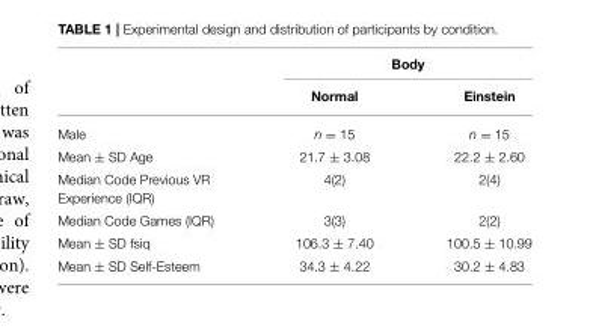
<table><thead><tr><td rowspan="2"></td><td colspan="2">Body</td></tr><tr><td>Normal</td><td>Einstein</td></tr></thead><tbody><tr><td>Male</td><td>n = 15</td><td>n = 15</td></tr><tr><td>Mean ± SD Age</td><td>21.7 ± 3.08</td><td>22.2 ± 2.60</td></tr><tr><td>Median Code Previous VR Experience (IQR)</td><td>4(2)</td><td>2(4)</td></tr><tr><td>Median Code Games (IQR)</td><td>3(3)</td><td>2(2)</td></tr><tr><td>Mean ± SD fsiq</td><td>106.3 ± 7.40</td><td>100.5 ± 10.99</td></tr><tr><td>Mean ± SD Self-Esteem</td><td>34.3 ± 4.22</td><td>30.2 ± 4.83</td></tr></tbody></table>